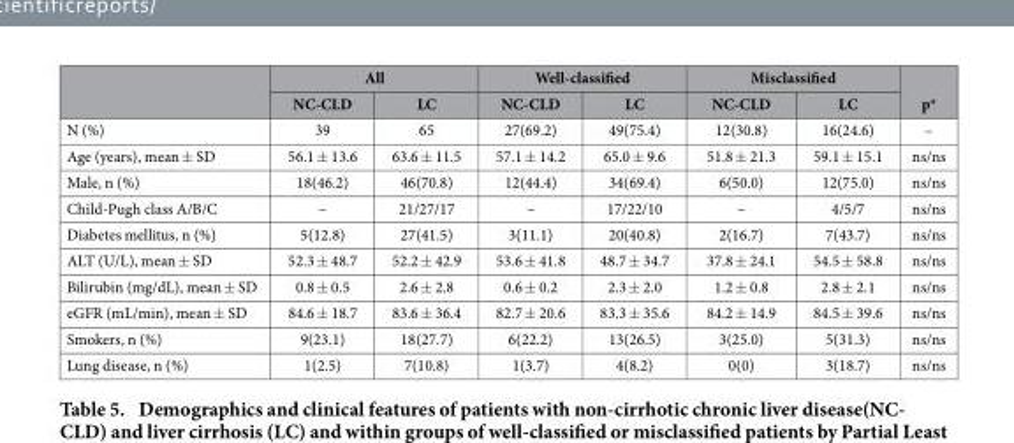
<table><thead><tr><td rowspan="2"></td><td colspan="2">All</td><td colspan="2">Well-classified</td><td colspan="2">Misclassified</td><td rowspan="2">p*</td></tr><tr><td>NC-CLD</td><td>LC</td><td>NC-CLD</td><td>LC</td><td>NC-CLD</td><td>LC</td></tr></thead><tbody><tr><td>N (%)</td><td>39</td><td>65</td><td>27(69.2)</td><td>49(75.4)</td><td>12(30.8)</td><td>16(24.6)</td><td>–</td></tr><tr><td>Age (years), mean ± SD</td><td>56.1 ± 13.6</td><td>63.6 ± 11.5</td><td>57.1 ± 14.2</td><td>65.0 ± 9.6</td><td>51.8 ± 21.3</td><td>59.1 ± 15.1</td><td>ns/ns</td></tr><tr><td>Male, n (%)</td><td>18(46.2)</td><td>46(70.8)</td><td>12(44.4)</td><td>34(69.4)</td><td>6(50.0)</td><td>12(75.0)</td><td>ns/ns</td></tr><tr><td>Child-Pugh class A/B/C</td><td>–</td><td>21/27/17</td><td>–</td><td>17/22/10</td><td>–</td><td>4/5/7</td><td>ns/ns</td></tr><tr><td>Diabetes mellitus, n (%)</td><td>5(12.8)</td><td>27(41.5)</td><td>3(11.1)</td><td>20(40.8)</td><td>2(16.7)</td><td>7(43.7)</td><td>ns/ns</td></tr><tr><td>ALT (U/L), mean ± SD</td><td>52.3 ± 48.7</td><td>52.2 ± 42.9</td><td>53.6 ± 41.8</td><td>48.7 ± 34.7</td><td>37.8 ± 24.1</td><td>54.5 ± 58.8</td><td>ns/ns</td></tr><tr><td>Bilirubin (mg/dL), mean ± SD</td><td>0.8 ± 0.5</td><td>2.6 ± 2.8</td><td>0.6 ± 0.2</td><td>2.3 ± 2.0</td><td>1.2 ± 0.8</td><td>2.8 ± 2.1</td><td>ns/ns</td></tr><tr><td>eGFR (mL/min), mean ± SD</td><td>84.6 ± 18.7</td><td>83.6 ± 36.4</td><td>82.7 ± 20.6</td><td>83.3 ± 35.6</td><td>84.2 ± 14.9</td><td>84.5 ± 39.6</td><td>ns/ns</td></tr><tr><td>Smokers, n (%)</td><td>9(23.1)</td><td>18(27.7)</td><td>6(22.2)</td><td>13(26.5)</td><td>3(25.0)</td><td>5(31.3)</td><td>ns/ns</td></tr><tr><td>Lung disease, n (%)</td><td>1(2.5)</td><td>7(10.8)</td><td>1(3.7)</td><td>4(8.2)</td><td>0(0)</td><td>3(18.7)</td><td>ns/ns</td></tr></tbody></table>